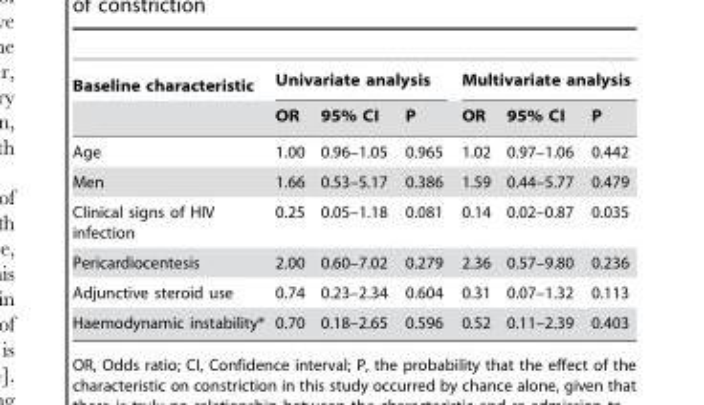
<table><thead><tr><td rowspan="2">Baseline characteristic</td><td colspan="3">Univariate analysis</td><td colspan="3">Multivariate analysis</td></tr><tr><td>OR</td><td>95% CI</td><td>P</td><td>OR</td><td>95% CI</td><td>P</td></tr></thead><tbody><tr><td>Age</td><td>1.00</td><td>0.96–1.05</td><td>0.965</td><td>1.02</td><td>0.97–1.06</td><td>0.442</td></tr><tr><td>Men</td><td>1.66</td><td>0.53–5.17</td><td>0.386</td><td>1.59</td><td>0.44–5.77</td><td>0.479</td></tr><tr><td>Clinical signs of HIV infection</td><td>0.25</td><td>0.05–1.18</td><td>0.081</td><td>0.14</td><td>0.02–0.87</td><td>0.035</td></tr><tr><td>Pericardiocentesis</td><td>2.00</td><td>0.60–7.02</td><td>0.279</td><td>2.36</td><td>0.57–9.80</td><td>0.236</td></tr><tr><td>Adjunctive steroid use</td><td>0.74</td><td>0.23–2.34</td><td>0.604</td><td>0.31</td><td>0.07–1.32</td><td>0.113</td></tr><tr><td>Haemodynamic instability*</td><td>0.70</td><td>0.18–2.65</td><td>0.596</td><td>0.52</td><td>0.11–2.39</td><td>0.403</td></tr></tbody></table>